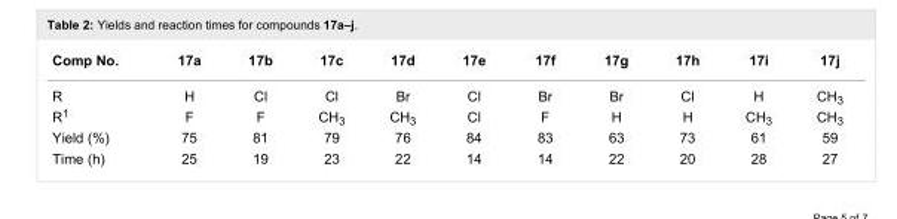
<table><tbody><tr><td>Comp No.</td><td>17a</td><td>17b</td><td>17c</td><td>17d</td><td>17e</td><td>17f</td><td>17g</td><td>17h</td><td>17i</td><td>17j</td></tr><tr><td>R</td><td>H</td><td>Cl</td><td>Cl</td><td>Br</td><td>Cl</td><td>Br</td><td>Br</td><td>Cl</td><td>H</td><td>CH<sub>3</sub></td></tr><tr><td>R<sup>1</sup></td><td>F</td><td>F</td><td>CH<sub>3</sub></td><td>CH<sub>3</sub></td><td>Cl</td><td>F</td><td>H</td><td>H</td><td>CH<sub>3</sub></td><td>CH<sub>3</sub></td></tr><tr><td>Yield (%)</td><td>75</td><td>81</td><td>79</td><td>76</td><td>84</td><td>83</td><td>63</td><td>73</td><td>61</td><td>59</td></tr><tr><td>Time (h)</td><td>25</td><td>19</td><td>23</td><td>22</td><td>14</td><td>14</td><td>22</td><td>20</td><td>28</td><td>27</td></tr></tbody></table>